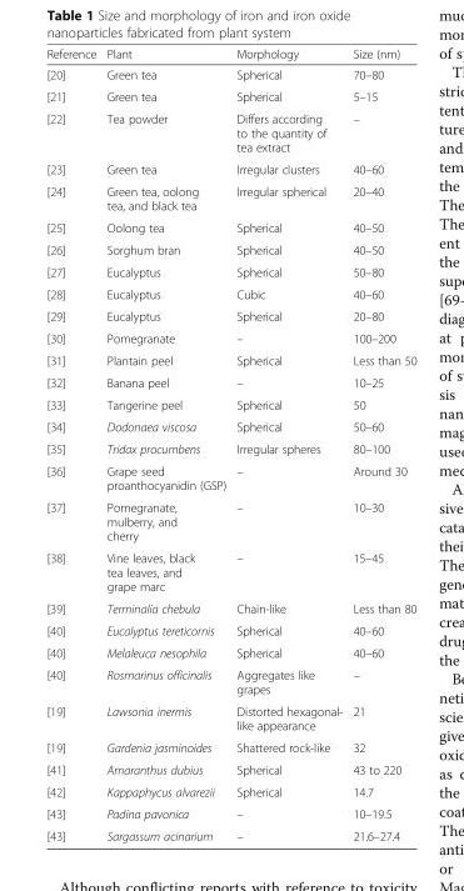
<table><thead><tr><td>Reference</td><td>Plant</td><td>Morphology</td><td>Size (nm)</td></tr></thead><tbody><tr><td>[20]</td><td>Green tea</td><td>Spherical</td><td>70–80</td></tr><tr><td>[21]</td><td>Green tea</td><td>Spherical</td><td>5–15</td></tr><tr><td>[22]</td><td>Tea powder</td><td>Differs according to the quantity of tea extract</td><td>–</td></tr><tr><td>[23]</td><td>Green tea</td><td>Irregular clusters</td><td>40–60</td></tr><tr><td>[24]</td><td>Green tea, oolong tea, and black tea</td><td>Irregular spherical</td><td>20–40</td></tr><tr><td>[25]</td><td>Oolong tea</td><td>Spherical</td><td>40–50</td></tr><tr><td>[26]</td><td>Sorghum bran</td><td>Spherical</td><td>40–50</td></tr><tr><td>[27]</td><td>Eucalyptus</td><td>Spherical</td><td>50–80</td></tr><tr><td>[28]</td><td>Eucalyptus</td><td>Cubic</td><td>40–60</td></tr><tr><td>[29]</td><td>Eucalyptus</td><td>Spherical</td><td>20–80</td></tr><tr><td>[30]</td><td>Pomegranate</td><td>–</td><td>100–200</td></tr><tr><td>[31]</td><td>Plantain peel</td><td>Spherical</td><td>Less than 50</td></tr><tr><td>[32]</td><td>Banana peel</td><td>–</td><td>10–25</td></tr><tr><td>[33]</td><td>Tangerine peel</td><td>Spherical</td><td>50</td></tr><tr><td>[34]</td><td>Dodonaea viscosa</td><td>Spherical</td><td>50–60</td></tr><tr><td>[35]</td><td>Tridax procumbens</td><td>Irregular spheres</td><td>80–100</td></tr><tr><td>[36]</td><td>Grape seed proanthocyanidin (GSP)</td><td>–</td><td>Around 30</td></tr><tr><td>[37]</td><td>Pomegranate, mulberry, and cherry</td><td>–</td><td>10–30</td></tr><tr><td>[38]</td><td>Vine leaves, black tea leaves, and grape marc</td><td>–</td><td>15–45</td></tr><tr><td>[39]</td><td>Terminalia chebula</td><td>Chain-like</td><td>Less than 80</td></tr><tr><td>[40]</td><td>Eucalyptus tereticornis</td><td>Spherical</td><td>40–60</td></tr><tr><td>[40]</td><td>Melaleuca nesophila</td><td>Spherical</td><td>40–60</td></tr><tr><td>[40]</td><td>Rosmarinus officinalis</td><td>Aggregates like grapes</td><td>–</td></tr><tr><td>[19]</td><td>Lawsonia inermis</td><td>Distorted hexagonal- like appearance</td><td>21</td></tr><tr><td>[19]</td><td>Gardenia jasminoides</td><td>Shattered rock-like</td><td>32</td></tr><tr><td>[41]</td><td>Amaranthus dubius</td><td>Spherical</td><td>43 to 220</td></tr><tr><td>[42]</td><td>Kappaphycus alvarezii</td><td>Spherical</td><td>14.7</td></tr><tr><td>[43]</td><td>Padina pavonica</td><td>–</td><td>10–19.5</td></tr><tr><td>[43]</td><td>Sargassum acinarium</td><td>–</td><td>21.6–27.4</td></tr></tbody></table>